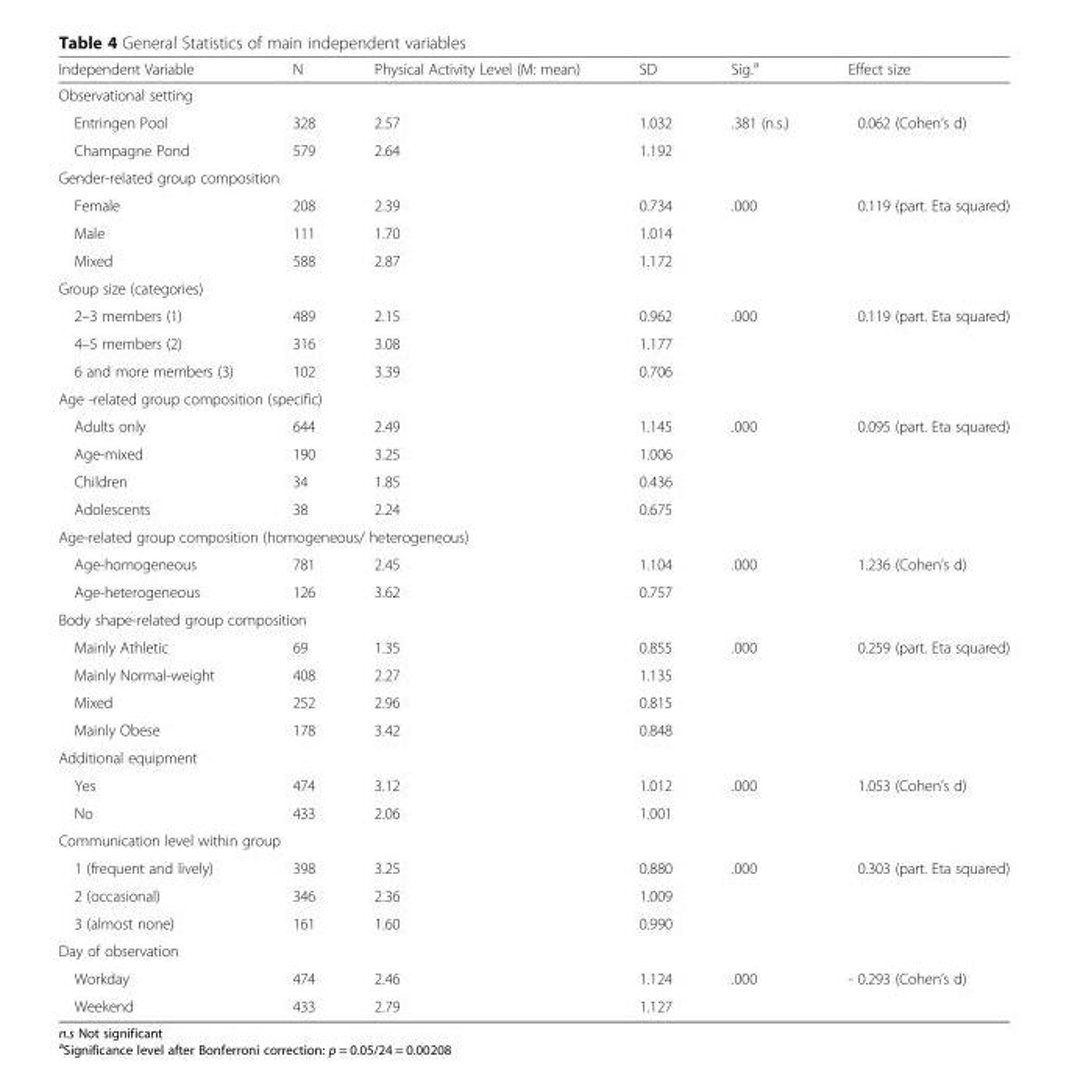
<table><thead><tr><td>Independent Variable</td><td>N</td><td>Physical Activity Level (M: mean)</td><td>SD</td><td>Sig.<sup>a</sup></td><td>Effect size</td></tr></thead><tbody><tr><td colspan="6">Observational setting</td></tr><tr><td>Entringen Pool</td><td>328</td><td>2.57</td><td>1.032</td><td rowspan="2">.381 (n.s.)</td><td rowspan="2">0.062 (Cohen’s d)</td></tr><tr><td>Champagne Pond</td><td>579</td><td>2.64</td><td>1.192</td></tr><tr><td colspan="6">Gender-related group composition</td></tr><tr><td>Female</td><td>208</td><td>2.39</td><td>0.734</td><td rowspan="3">.000</td><td rowspan="3">0.119 (part. Eta squared)</td></tr><tr><td>Male</td><td>111</td><td>1.70</td><td>1.014</td></tr><tr><td>Mixed</td><td>588</td><td>2.87</td><td>1.172</td></tr><tr><td colspan="6">Group size (categories)</td></tr><tr><td>2–3 members (1)</td><td>489</td><td>2.15</td><td>0.962</td><td rowspan="3">.000</td><td rowspan="3">0.119 (part. Eta squared)</td></tr><tr><td>4–5 members (2)</td><td>316</td><td>3.08</td><td>1.177</td></tr><tr><td>6 and more members (3)</td><td>102</td><td>3.39</td><td>0.706</td></tr><tr><td colspan="6">Age -related group composition (specific)</td></tr><tr><td>Adults only</td><td>644</td><td>2.49</td><td>1.145</td><td rowspan="4">.000</td><td rowspan="4">0.095 (part. Eta squared)</td></tr><tr><td>Age-mixed</td><td>190</td><td>3.25</td><td>1.006</td></tr><tr><td>Children</td><td>34</td><td>1.85</td><td>0.436</td></tr><tr><td>Adolescents</td><td>38</td><td>2.24</td><td>0.675</td></tr><tr><td colspan="6">Age-related group composition (homogeneous/ heterogeneous)</td></tr><tr><td>Age-homogeneous</td><td>781</td><td>2.45</td><td>1.104</td><td rowspan="2">.000</td><td rowspan="2">1.236 (Cohen’s d)</td></tr><tr><td>Age-heterogeneous</td><td>126</td><td>3.62</td><td>0.757</td></tr><tr><td colspan="6">Body shape-related group composition</td></tr><tr><td>Mainly Athletic</td><td>69</td><td>1.35</td><td>0.855</td><td rowspan="4">.000</td><td rowspan="4">0.259 (part. Eta squared)</td></tr><tr><td>Mainly Normal-weight</td><td>408</td><td>2.27</td><td>1.135</td></tr><tr><td>Mixed</td><td>252</td><td>2.96</td><td>0.815</td></tr><tr><td>Mainly Obese</td><td>178</td><td>3.42</td><td>0.848</td></tr><tr><td colspan="6">Additional equipment</td></tr><tr><td>Yes</td><td>474</td><td>3.12</td><td>1.012</td><td rowspan="2">.000</td><td rowspan="2">1.053 (Cohen’s d)</td></tr><tr><td>No</td><td>433</td><td>2.06</td><td>1.001</td></tr><tr><td colspan="6">Communication level within group</td></tr><tr><td>1 (frequent and lively)</td><td>398</td><td>3.25</td><td>0.880</td><td>.000</td><td rowspan="3">0.303 (part. Eta squared)</td></tr><tr><td>2 (occasional)</td><td>346</td><td>2.36</td><td>1.009</td><td rowspan="2"></td></tr><tr><td>3 (almost none)</td><td>161</td><td>1.60</td><td>0.990</td></tr><tr><td colspan="6">Day of observation</td></tr><tr><td>Workday</td><td>474</td><td>2.46</td><td>1.124</td><td rowspan="2">.000</td><td rowspan="2">- 0.293 (Cohen’s d)</td></tr><tr><td>Weekend</td><td>433</td><td>2.79</td><td>1.127</td></tr></tbody></table>